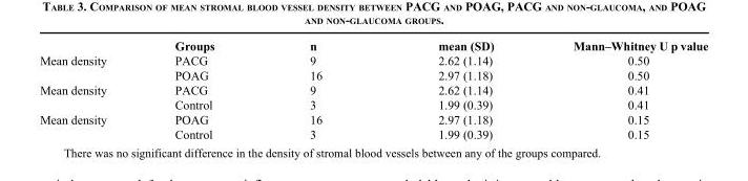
<table><thead><tr><td></td><td>Groups</td><td>n</td><td>mean (SD)</td><td>Mann–Whitney U p value</td></tr></thead><tbody><tr><td rowspan="2">Mean density</td><td>PACG</td><td>9</td><td>2.62 (1.14)</td><td>0.50</td></tr><tr><td>POAG</td><td>16</td><td>2.97 (1.18)</td><td>0.50</td></tr><tr><td rowspan="2">Mean density</td><td>PACG</td><td>9</td><td>2.62 (1.14)</td><td>0.41</td></tr><tr><td>Control</td><td>3</td><td>1.99 (0.39)</td><td>0.41</td></tr><tr><td rowspan="2">Mean density</td><td>POAG</td><td>16</td><td>2.97 (1.18)</td><td>0.15</td></tr><tr><td>Control</td><td>3</td><td>1.99 (0.39)</td><td>0.15</td></tr></tbody></table>